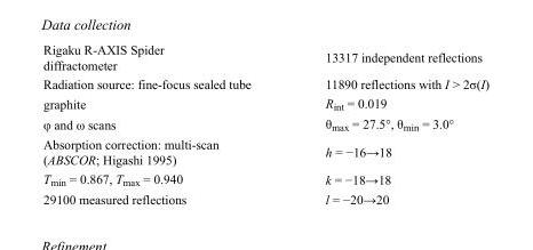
<table><tbody><tr><td>Rigaku R-AXIS Spider diffractometer</td><td>13317 independent reflections</td></tr><tr><td>Radiation source: fine-focus sealed tube</td><td>11890 reflections with I &gt; 2σ(I)</td></tr><tr><td>graphite</td><td>R<sub>int</sub> = 0.019</td></tr><tr><td>φ and ω scans</td><td>θ<sub>max</sub> = 27.5°, θ<sub>min</sub> = 3.0°</td></tr><tr><td>Absorption correction: multi-scan (ABSCOR; Higashi 1995)</td><td>h = −16→18</td></tr><tr><td>T<sub>min</sub> = 0.867, T<sub>max</sub> = 0.940</td><td>k = −18→18</td></tr><tr><td>29100 measured reflections</td><td>l = −20→20</td></tr></tbody></table>